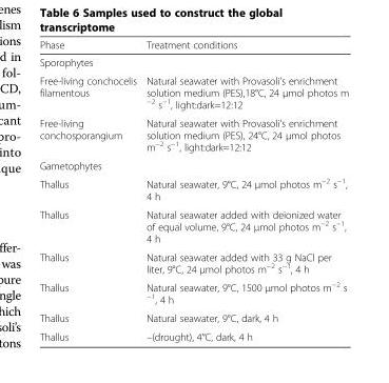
<table><thead><tr><td>Phase</td><td>Treatment conditions</td></tr></thead><tbody><tr><td colspan="2">Sporophytes</td></tr><tr><td>Free-living conchocelis filamentous</td><td>Natural seawater with Provasoli’s enrichment solution medium (PES),18°C, 24 μmol photos m <sup>−2</sup> s<sup>−1</sup>, light:dark=12:12</td></tr><tr><td>Free-living conchosporangium</td><td>Natural seawater with Provasoli’s enrichment solution medium (PES), 24°C, 24 μmol photos m<sup>−2</sup> s<sup>−1</sup>, light:dark=12:12</td></tr><tr><td colspan="2">Gametophytes</td></tr><tr><td>Thallus</td><td>Natural seawater, 9°C, 24 μmol photos m<sup>−2</sup> s<sup>−1</sup>, 4 h</td></tr><tr><td>Thallus</td><td>Natural seawater added with deionized water of equal volume, 9°C, 24 μmol photos m<sup>−2</sup> s<sup>−1</sup>, 4 h</td></tr><tr><td>Thallus</td><td>Natural seawater added with 33 g NaCl per liter, 9°C, 24 μmol photos m<sup>−2</sup> s<sup>−1</sup>, 4 h</td></tr><tr><td>Thallus</td><td>Natural seawater, 9°C, 1500 μmol photos m<sup>−2</sup> s <sup>−1</sup>, 4 h</td></tr><tr><td>Thallus</td><td>Natural seawater, 9°C, dark, 4 h</td></tr><tr><td>Thallus</td><td>–(drought), 4°C, dark, 4 h</td></tr></tbody></table>